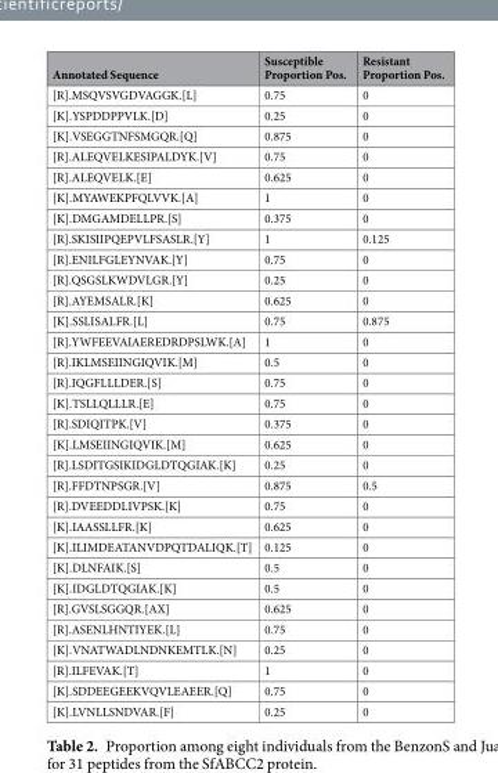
<table><thead><tr><td>Annotated Sequence</td><td>Susceptible Proportion Pos.</td><td>Resistant Proportion Pos.</td></tr></thead><tbody><tr><td>[R].MSQVSVGDVAGGK.[L]</td><td>0.75</td><td>0</td></tr><tr><td>[K].YSPDDPPVLK.[D]</td><td>0.25</td><td>0</td></tr><tr><td>[K].VSEGGTNFSMGQR.[Q]</td><td>0.875</td><td>0</td></tr><tr><td>[R].ALEQVELKESIPALDYK.[V]</td><td>0.75</td><td>0</td></tr><tr><td>[R].ALEQVELK.[E]</td><td>0.625</td><td>0</td></tr><tr><td>[K].MYAWEKPFQLVVK.[A]</td><td>1</td><td>0</td></tr><tr><td>[K].DMGAMDELLPR.[S]</td><td>0.375</td><td>0</td></tr><tr><td>[R].SKISIIPQEPVLFSASLR.[Y]</td><td>1</td><td>0.125</td></tr><tr><td>[R].ENILFGLEYNVAK.[Y]</td><td>0.75</td><td>0</td></tr><tr><td>[R].QSGSLKWDVLGR.[Y]</td><td>0.25</td><td>0</td></tr><tr><td>[R].AYEMSALR.[K]</td><td>0.625</td><td>0</td></tr><tr><td>[K].SSLISALFR.[L]</td><td>0.75</td><td>0.875</td></tr><tr><td>[R].YWFEEVAIAEREDRDPSLWK.[A]</td><td>1</td><td>0</td></tr><tr><td>[R].IKLMSEIINGIQVIK.[M]</td><td>0.5</td><td>0</td></tr><tr><td>[R].IQGFLLLDER.[S]</td><td>0.75</td><td>0</td></tr><tr><td>[K].TSLLQLLLR.[E]</td><td>0.75</td><td>0</td></tr><tr><td>[R].SDIQITPK.[V]</td><td>0.375</td><td>0</td></tr><tr><td>[K].LMSEIINGIQVIK.[M]</td><td>0.625</td><td>0</td></tr><tr><td>[R].LSDITGSIKIDGLDTQGIAK.[K]</td><td>0.25</td><td>0</td></tr><tr><td>[R].FFDTNPSGR.[V]</td><td>0.875</td><td>0.5</td></tr><tr><td>[R].DVEEDDLIVPSK.[K]</td><td>0.75</td><td>0</td></tr><tr><td>[K].IAASSLLFR.[K]</td><td>0.625</td><td>0</td></tr><tr><td>[K].ILIMDEATANVDPQTDALIQK.[T]</td><td>0.125</td><td>0</td></tr><tr><td>[K].DLNFAIK.[S]</td><td>0.5</td><td>0</td></tr><tr><td>[K].IDGLDTQGIAK.[K]</td><td>0.5</td><td>0</td></tr><tr><td>[R].GVSLSGGQR.[AX]</td><td>0.625</td><td>0</td></tr><tr><td>[R].ASENLHNTIYEK.[L]</td><td>0.75</td><td>0</td></tr><tr><td>[K].VNATWADLNDNKEMTLK.[N]</td><td>0.25</td><td>0</td></tr><tr><td>[R].ILFEVAK.[T]</td><td>1</td><td>0</td></tr><tr><td>[K].SDDEEGEEKVQVLEAEER.[Q]</td><td>0.75</td><td>0</td></tr><tr><td>[K].LVNLLSNDVAR.[F]</td><td>0.25</td><td>0</td></tr></tbody></table>